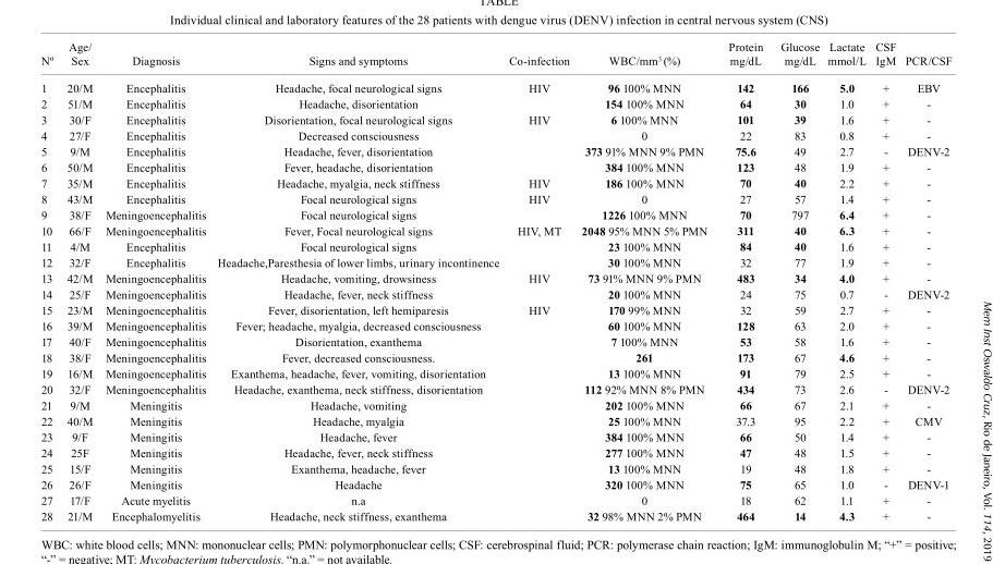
<table><tbody><tr><td>Nº</td><td>Age/ Sex</td><td>Diagnosis</td><td>Signs and symptoms</td><td>Co-infection</td><td>WBC/mm<sup>3</sup> (%)</td><td>Protein mg/dL</td><td>Glucose mg/dL</td><td>Lactate mmol/L</td><td>CSF IgM</td><td>PCR/CSF</td></tr><tr><td>1</td><td>20/M</td><td>Encephalitis</td><td>Headache, focal neurological signs</td><td>HIV</td><td>96 100% MNN</td><td>142</td><td>166</td><td>5.0</td><td>+</td><td>EBV</td></tr><tr><td>2</td><td>51/M</td><td>Encephalitis</td><td>Headache, disorientation</td><td></td><td>154 100% MNN</td><td>64</td><td>30</td><td>1.0</td><td>+</td><td>-</td></tr><tr><td>3</td><td>30/F</td><td>Encephalitis</td><td>Disorientation, focal neurological signs</td><td>HIV</td><td>6 100% MNN</td><td>101</td><td>39</td><td>1.6</td><td>+</td><td>-</td></tr><tr><td>4</td><td>27/F</td><td>Encephalitis</td><td>Decreased consciousness</td><td></td><td>0</td><td>22</td><td>83</td><td>0.8</td><td>+</td><td>-</td></tr><tr><td>5</td><td>9/M</td><td>Encephalitis</td><td>Headache, fever, disorientation</td><td></td><td>373 91% MNN 9% PMN</td><td>75.6</td><td>49</td><td>2.7</td><td>-</td><td>DENV-2</td></tr><tr><td>6</td><td>50/M</td><td>Encephalitis</td><td>Fever, headache, disorientation</td><td></td><td>384 100% MNN</td><td>123</td><td>48</td><td>1.9</td><td>+</td><td>-</td></tr><tr><td>7</td><td>35/M</td><td>Encephalitis</td><td>Headache, myalgia, neck stiffness</td><td>HIV</td><td>186 100% MNN</td><td>70</td><td>40</td><td>2.2</td><td>+</td><td>-</td></tr><tr><td>8</td><td>43/M</td><td>Encephalitis</td><td>Focal neurological signs</td><td>HIV</td><td>0</td><td>27</td><td>57</td><td>1.4</td><td>+</td><td>-</td></tr><tr><td>9</td><td>38/F</td><td>Meningoencephalitis</td><td>Focal neurological signs</td><td></td><td>1226 100% MNN</td><td>70</td><td>797</td><td>6.4</td><td>+</td><td>-</td></tr><tr><td>10</td><td>66/F</td><td>Meningoencephalitis</td><td>Fever, Focal neurological signs</td><td>HIV, MT</td><td>2048 95% MNN 5% PMN</td><td>311</td><td>40</td><td>6.3</td><td>+</td><td>-</td></tr><tr><td>11</td><td>4/M</td><td>Encephalitis</td><td>Focal neurological signs</td><td></td><td>23 100% MNN</td><td>84</td><td>40</td><td>1.6</td><td>+</td><td>-</td></tr><tr><td>12</td><td>32/F</td><td>Encephalitis</td><td>Headache,Paresthesia of lower limbs, urinary incontinence</td><td></td><td>30 100% MNN</td><td>32</td><td>77</td><td>1.9</td><td>+</td><td>-</td></tr><tr><td>13</td><td>42/M</td><td>Meningoencephalitis</td><td>Headache, vomiting, drowsiness</td><td>HIV</td><td>73 91% MNN 9% PMN</td><td>483</td><td>34</td><td>4.0</td><td>+</td><td>-</td></tr><tr><td>14</td><td>25/F</td><td>Meningoencephalitis</td><td>Headache, fever, neck stiffness</td><td></td><td>20 100% MNN</td><td>24</td><td>75</td><td>0.7</td><td>-</td><td>DENV-2</td></tr><tr><td>15</td><td>23/M</td><td>Meningoencephalitis</td><td>Fever, disorientation, left hemiparesis</td><td>HIV</td><td>170 99% MNN</td><td>32</td><td>59</td><td>2.7</td><td>+</td><td>-</td></tr><tr><td>16</td><td>39/M</td><td>Meningoencephalitis</td><td>Fever; headache, myalgia, decreased consciousness</td><td></td><td>60 100% MNN</td><td>128</td><td>63</td><td>2.0</td><td>+</td><td>-</td></tr><tr><td>17</td><td>40/F</td><td>Meningoencephalitis</td><td>Disorientation, exanthema</td><td></td><td>7 100% MNN</td><td>53</td><td>58</td><td>1.6</td><td>+</td><td>-</td></tr><tr><td>18</td><td>38/F</td><td>Meningoencephalitis</td><td>Fever, decreased consciousness.</td><td></td><td>261</td><td>173</td><td>67</td><td>4.6</td><td>+</td><td>-</td></tr><tr><td>19</td><td>16/M</td><td>Meningoencephalitis</td><td>Exanthema, headache, fever, vomiting, disorientation</td><td></td><td>13 100% MNN</td><td>91</td><td>79</td><td>2.5</td><td>+</td><td>-</td></tr><tr><td>20</td><td>32/F</td><td>Meningoencephalitis</td><td>Headache, exanthema, neck stiffness, disorientation</td><td></td><td>112 92% MNN 8% PMN</td><td>434</td><td>73</td><td>2.6</td><td>-</td><td>DENV-2</td></tr><tr><td>21</td><td>9/M</td><td>Meningitis</td><td>Headache, vomiting</td><td></td><td>202 100% MNN</td><td>66</td><td>67</td><td>2.1</td><td>+</td><td>-</td></tr><tr><td>22</td><td>40/M</td><td>Meningitis</td><td>Headache, myalgia</td><td></td><td>25 100% MNN</td><td>37.3</td><td>95</td><td>2.2</td><td>+</td><td>CMV</td></tr><tr><td>23</td><td>9/F</td><td>Meningitis</td><td>Headache, fever</td><td></td><td>384 100% MNN</td><td>66</td><td>50</td><td>1.4</td><td>+</td><td>-</td></tr><tr><td>24</td><td>25F</td><td>Meningitis</td><td>Headache, fever, neck stiffness</td><td></td><td>277 100% MNN</td><td>47</td><td>48</td><td>1.5</td><td>+</td><td>-</td></tr><tr><td>25</td><td>15/F</td><td>Meningitis</td><td>Exanthema, headache, fever</td><td></td><td>13 100% MNN</td><td>19</td><td>48</td><td>1.8</td><td>+</td><td>-</td></tr><tr><td>26</td><td>26/F</td><td>Meningitis</td><td>Headache</td><td></td><td>320 100% MNN</td><td>75</td><td>65</td><td>1.0</td><td>-</td><td>DENV-1</td></tr><tr><td>27</td><td>17/F</td><td>Acute myelitis</td><td>n.a</td><td></td><td>0</td><td>18</td><td>62</td><td>1.1</td><td>+</td><td>-</td></tr><tr><td>28</td><td>21/M</td><td>Encephalomyelitis</td><td>Headache, neck stiffness, exanthema</td><td></td><td>32 98% MNN 2% PMN</td><td>464</td><td>14</td><td>4.3</td><td>+</td><td>-</td></tr></tbody></table>